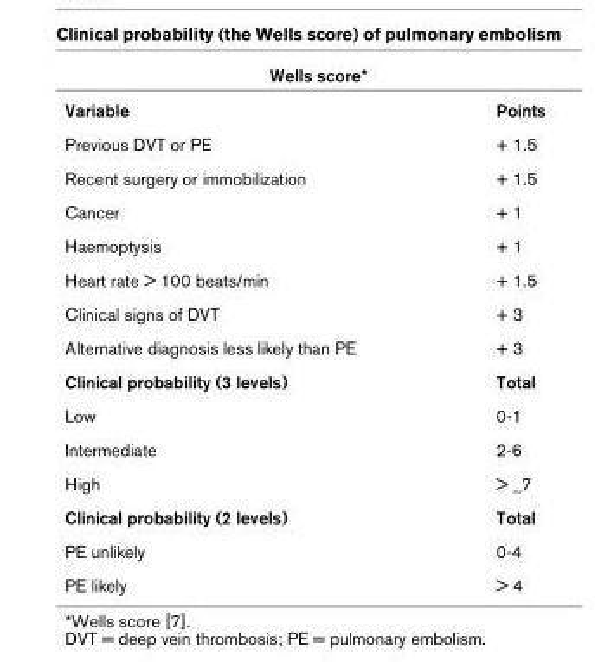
<table><thead><tr><td colspan="2">Wells score*</td></tr><tr><td>Variable</td><td>Points</td></tr></thead><tbody><tr><td>Previous DVT or PE</td><td>+ 1.5</td></tr><tr><td>Recent surgery or immobilization</td><td>+ 1.5</td></tr><tr><td>Cancer</td><td>+ 1</td></tr><tr><td>Haemoptysis</td><td>+ 1</td></tr><tr><td>Heart rate &gt; 100 beats/min</td><td>+ 1.5</td></tr><tr><td>Clinical signs of DVT</td><td>+ 3</td></tr><tr><td>Alternative diagnosis less likely than PE</td><td>+ 3</td></tr><tr><td>Clinical probability (3 levels)</td><td>Total</td></tr><tr><td>Low</td><td>0-1</td></tr><tr><td>Intermediate</td><td>2-6</td></tr><tr><td>High</td><td>&gt; _7</td></tr><tr><td>Clinical probability (2 levels)</td><td>Total</td></tr><tr><td>PE unlikely</td><td>0-4</td></tr><tr><td>PE likely</td><td>&gt; 4</td></tr></tbody></table>